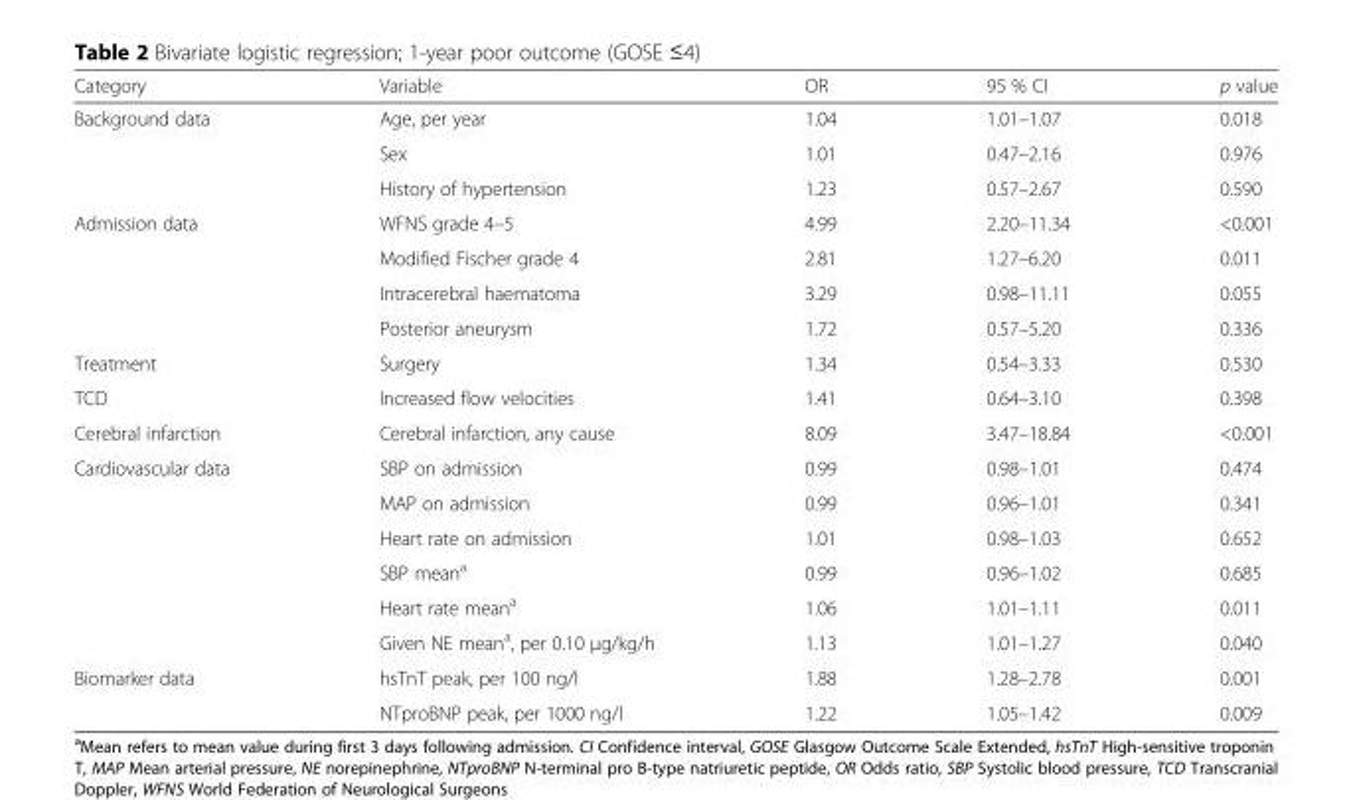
<table><thead><tr><td>Category</td><td>Variable</td><td>OR</td><td>95 % CI</td><td>p value</td></tr></thead><tbody><tr><td rowspan="3">Background data</td><td>Age, per year</td><td>1.04</td><td>1.01–1.07</td><td>0.018</td></tr><tr><td>Sex</td><td>1.01</td><td>0.47–2.16</td><td>0.976</td></tr><tr><td>History of hypertension</td><td>1.23</td><td>0.57–2.67</td><td>0.590</td></tr><tr><td rowspan="4">Admission data</td><td>WFNS grade 4–5</td><td>4.99</td><td>2.20–11.34</td><td>&lt;0.001</td></tr><tr><td>Modified Fischer grade 4</td><td>2.81</td><td>1.27–6.20</td><td>0.011</td></tr><tr><td>Intracerebral haematoma</td><td>3.29</td><td>0.98–11.11</td><td>0.055</td></tr><tr><td>Posterior aneurysm</td><td>1.72</td><td>0.57–5.20</td><td>0.336</td></tr><tr><td>Treatment</td><td>Surgery</td><td>1.34</td><td>0.54–3.33</td><td>0.530</td></tr><tr><td>TCD</td><td>Increased flow velocities</td><td>1.41</td><td>0.64–3.10</td><td>0.398</td></tr><tr><td>Cerebral infarction</td><td>Cerebral infarction, any cause</td><td>8.09</td><td>3.47–18.84</td><td>&lt;0.001</td></tr><tr><td rowspan="6">Cardiovascular data</td><td>SBP on admission</td><td>0.99</td><td>0.98–1.01</td><td>0.474</td></tr><tr><td>MAP on admission</td><td>0.99</td><td>0.96–1.01</td><td>0.341</td></tr><tr><td>Heart rate on admission</td><td>1.01</td><td>0.98–1.03</td><td>0.652</td></tr><tr><td>SBP mean<sup>a</sup></td><td>0.99</td><td>0.96–1.02</td><td>0.685</td></tr><tr><td>Heart rate mean<sup>a</sup></td><td>1.06</td><td>1.01–1.11</td><td>0.011</td></tr><tr><td>Given NE mean<sup>a</sup>, per 0.10 μg/kg/h</td><td>1.13</td><td>1.01–1.27</td><td>0.040</td></tr><tr><td rowspan="2">Biomarker data</td><td>hsTnT peak, per 100 ng/l</td><td>1.88</td><td>1.28–2.78</td><td>0.001</td></tr><tr><td>NTproBNP peak, per 1000 ng/l</td><td>1.22</td><td>1.05–1.42</td><td>0.009</td></tr></tbody></table>